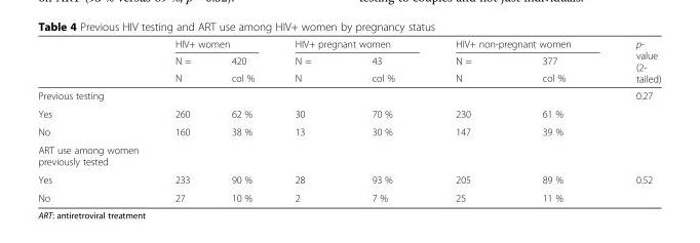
<table><thead><tr><td rowspan="3"></td><td colspan="2">HIV+ women</td><td colspan="2">HIV+ pregnant women</td><td colspan="2">HIV+ non-pregnant women</td><td rowspan="3">p- value (2- tailed)</td></tr><tr><td rowspan="2">N = N</td><td rowspan="2">420 col %</td><td rowspan="2">N = N</td><td rowspan="2">43 col %</td><td rowspan="2">N = N</td><td rowspan="2">377 col %</td></tr><tr></tr></thead><tbody><tr><td>Previous testing</td><td></td><td></td><td></td><td></td><td></td><td></td><td>0.27</td></tr><tr><td>Yes</td><td>260</td><td>62 %</td><td>30</td><td>70 %</td><td>230</td><td>61 %</td><td></td></tr><tr><td>No</td><td>160</td><td>38 %</td><td>13</td><td>30 %</td><td>147</td><td>39 %</td><td></td></tr><tr><td colspan="8">ART use among women previously tested</td></tr><tr><td>Yes</td><td>233</td><td>90 %</td><td>28</td><td>93 %</td><td>205</td><td>89 %</td><td>0.52</td></tr><tr><td>No</td><td>27</td><td>10 %</td><td>2</td><td>7 %</td><td>25</td><td>11 %</td><td></td></tr></tbody></table>